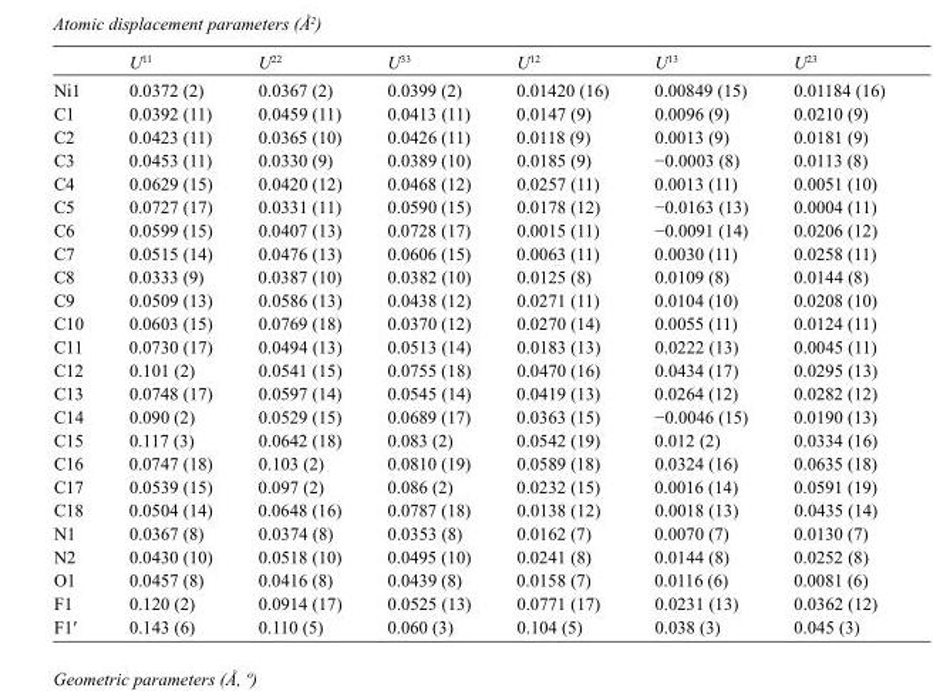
<table><thead><tr><td></td><td>U<sup>11</sup></td><td>U<sup>22</sup></td><td>U<sup>33</sup></td><td>U<sup>12</sup></td><td>U<sup>13</sup></td><td>U<sup>23</sup></td></tr></thead><tbody><tr><td>Ni1</td><td>0.0372 (2)</td><td>0.0367 (2)</td><td>0.0399 (2)</td><td>0.01420 (16)</td><td>0.00849 (15)</td><td>0.01184 (16)</td></tr><tr><td>C1</td><td>0.0392 (11)</td><td>0.0459 (11)</td><td>0.0413 (11)</td><td>0.0147 (9)</td><td>0.0096 (9)</td><td>0.0210 (9)</td></tr><tr><td>C2</td><td>0.0423 (11)</td><td>0.0365 (10)</td><td>0.0426 (11)</td><td>0.0118 (9)</td><td>0.0013 (9)</td><td>0.0181 (9)</td></tr><tr><td>C3</td><td>0.0453 (11)</td><td>0.0330 (9)</td><td>0.0389 (10)</td><td>0.0185 (9)</td><td>−0.0003 (8)</td><td>0.0113 (8)</td></tr><tr><td>C4</td><td>0.0629 (15)</td><td>0.0420 (12)</td><td>0.0468 (12)</td><td>0.0257 (11)</td><td>0.0013 (11)</td><td>0.0051 (10)</td></tr><tr><td>C5</td><td>0.0727 (17)</td><td>0.0331 (11)</td><td>0.0590 (15)</td><td>0.0178 (12)</td><td>−0.0163 (13)</td><td>0.0004 (11)</td></tr><tr><td>C6</td><td>0.0599 (15)</td><td>0.0407 (13)</td><td>0.0728 (17)</td><td>0.0015 (11)</td><td>−0.0091 (14)</td><td>0.0206 (12)</td></tr><tr><td>C7</td><td>0.0515 (14)</td><td>0.0476 (13)</td><td>0.0606 (15)</td><td>0.0063 (11)</td><td>0.0030 (11)</td><td>0.0258 (11)</td></tr><tr><td>C8</td><td>0.0333 (9)</td><td>0.0387 (10)</td><td>0.0382 (10)</td><td>0.0125 (8)</td><td>0.0109 (8)</td><td>0.0144 (8)</td></tr><tr><td>C9</td><td>0.0509 (13)</td><td>0.0586 (13)</td><td>0.0438 (12)</td><td>0.0271 (11)</td><td>0.0104 (10)</td><td>0.0208 (10)</td></tr><tr><td>C10</td><td>0.0603 (15)</td><td>0.0769 (18)</td><td>0.0370 (12)</td><td>0.0270 (14)</td><td>0.0055 (11)</td><td>0.0124 (11)</td></tr><tr><td>C11</td><td>0.0730 (17)</td><td>0.0494 (13)</td><td>0.0513 (14)</td><td>0.0183 (13)</td><td>0.0222 (13)</td><td>0.0045 (11)</td></tr><tr><td>C12</td><td>0.101 (2)</td><td>0.0541 (15)</td><td>0.0755 (18)</td><td>0.0470 (16)</td><td>0.0434 (17)</td><td>0.0295 (13)</td></tr><tr><td>C13</td><td>0.0748 (17)</td><td>0.0597 (14)</td><td>0.0545 (14)</td><td>0.0419 (13)</td><td>0.0264 (12)</td><td>0.0282 (12)</td></tr><tr><td>C14</td><td>0.090 (2)</td><td>0.0529 (15)</td><td>0.0689 (17)</td><td>0.0363 (15)</td><td>−0.0046 (15)</td><td>0.0190 (13)</td></tr><tr><td>C15</td><td>0.117 (3)</td><td>0.0642 (18)</td><td>0.083 (2)</td><td>0.0542 (19)</td><td>0.012 (2)</td><td>0.0334 (16)</td></tr><tr><td>C16</td><td>0.0747 (18)</td><td>0.103 (2)</td><td>0.0810 (19)</td><td>0.0589 (18)</td><td>0.0324 (16)</td><td>0.0635 (18)</td></tr><tr><td>C17</td><td>0.0539 (15)</td><td>0.097 (2)</td><td>0.086 (2)</td><td>0.0232 (15)</td><td>0.0016 (14)</td><td>0.0591 (19)</td></tr><tr><td>C18</td><td>0.0504 (14)</td><td>0.0648 (16)</td><td>0.0787 (18)</td><td>0.0138 (12)</td><td>0.0018 (13)</td><td>0.0435 (14)</td></tr><tr><td>N1</td><td>0.0367 (8)</td><td>0.0374 (8)</td><td>0.0353 (8)</td><td>0.0162 (7)</td><td>0.0070 (7)</td><td>0.0130 (7)</td></tr><tr><td>N2</td><td>0.0430 (10)</td><td>0.0518 (10)</td><td>0.0495 (10)</td><td>0.0241 (8)</td><td>0.0144 (8)</td><td>0.0252 (8)</td></tr><tr><td>O1</td><td>0.0457 (8)</td><td>0.0416 (8)</td><td>0.0439 (8)</td><td>0.0158 (7)</td><td>0.0116 (6)</td><td>0.0081 (6)</td></tr><tr><td>F1</td><td>0.120 (2)</td><td>0.0914 (17)</td><td>0.0525 (13)</td><td>0.0771 (17)</td><td>0.0231 (13)</td><td>0.0362 (12)</td></tr><tr><td>F1′</td><td>0.143 (6)</td><td>0.110 (5)</td><td>0.060 (3)</td><td>0.104 (5)</td><td>0.038 (3)</td><td>0.045 (3)</td></tr></tbody></table>